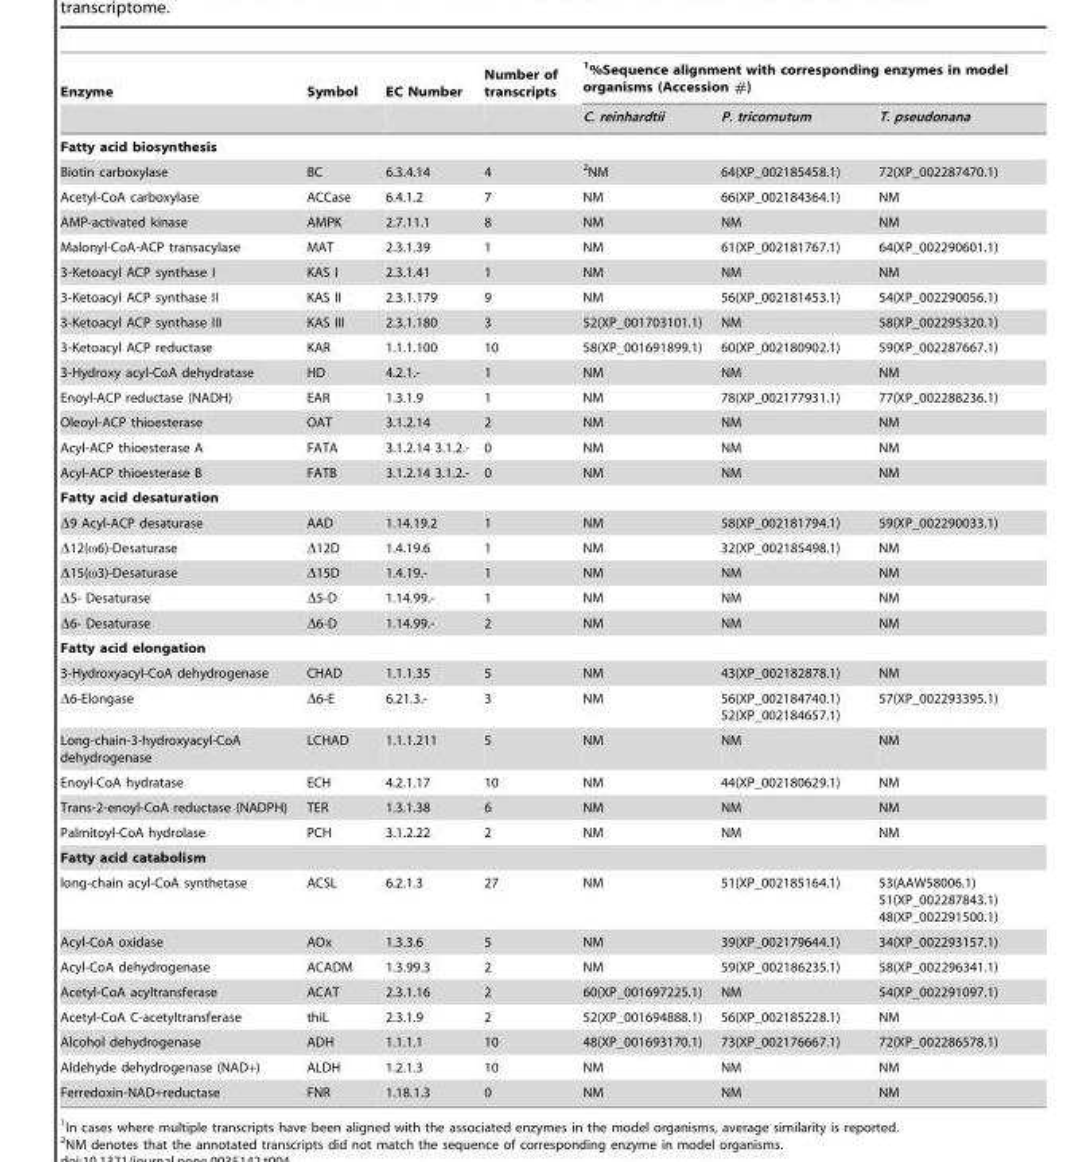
<table><thead><tr><td rowspan="2">Enzyme</td><td rowspan="2">Symbol</td><td rowspan="2">EC Number</td><td rowspan="2">Number of transcripts</td><td colspan="3">1%Sequence alignment with corresponding enzymes in model organisms (Accession #)</td></tr><tr><td>C. reinhardtii</td><td>P. tricornutum</td><td>T. pseudonana</td></tr></thead><tbody><tr><td colspan="7">Fatty acid biosynthesis</td></tr><tr><td>Biotin carboxylase</td><td>BC</td><td>6.3.4.14</td><td>4</td><td>2NM</td><td>64(XP_002185458.1)</td><td>72(XP_002287470.1)</td></tr><tr><td>Acetyl-CoA carboxylase</td><td>ACCase</td><td>6.4.1.2</td><td>7</td><td>NM</td><td>66(XP_002184364.1)</td><td>NM</td></tr><tr><td>AMP-activated kinase</td><td>AMPK</td><td>2.7.11.1</td><td>8</td><td>NM</td><td>NM</td><td>NM</td></tr><tr><td>Malonyl-CoA-ACP transacylase</td><td>MAT</td><td>2.3.1.39</td><td>1</td><td>NM</td><td>61(XP_002181767.1)</td><td>64(XP_002290601.1)</td></tr><tr><td>3-Ketoacyl ACP synthase I</td><td>KAS I</td><td>2.3.1.41</td><td>1</td><td>NM</td><td>NM</td><td>NM</td></tr><tr><td>3-Ketoacyl ACP synthase II</td><td>KAS II</td><td>2.3.1.179</td><td>9</td><td>NM</td><td>56(XP_002181453.1)</td><td>54(XP_002290056.1)</td></tr><tr><td>3-Ketoacyl ACP synthase III</td><td>KAS III</td><td>2.3.1.180</td><td>3</td><td>52(XP_001703101.1)</td><td>NM</td><td>58(XP_002295320.1)</td></tr><tr><td>3-Ketoacyl ACP reductase</td><td>KAR</td><td>1.1.1.100</td><td>10</td><td>58(XP_001691899.1)</td><td>60(XP_002180902.1)</td><td>59(XP_002287667.1)</td></tr><tr><td>3-Hydroxy acyl-CoA dehydratase</td><td>HD</td><td>4.2.1.-</td><td>1</td><td>NM</td><td>NM</td><td>NM</td></tr><tr><td>Enoyl-ACP reductase (NADH)</td><td>EAR</td><td>1.3.1.9</td><td>1</td><td>NM</td><td>78(XP_002177931.1)</td><td>77(XP_002288236.1)</td></tr><tr><td>Oleoyl-ACP thioesterase</td><td>OAT</td><td>3.1.2.14</td><td>2</td><td>NM</td><td>NM</td><td>NM</td></tr><tr><td>Acyl-ACP thioesterase A</td><td>FATA</td><td>3.1.2.14 3.1.2.-</td><td>0</td><td>NM</td><td>NM</td><td>NM</td></tr><tr><td>Acyl-ACP thioesterase B</td><td>FATB</td><td>3.1.2.14 3.1.2.-</td><td>0</td><td>NM</td><td>NM</td><td>NM</td></tr><tr><td colspan="7">Fatty acid desaturation</td></tr><tr><td>Δ9 Acyl-ACP desaturase</td><td>AAD</td><td>1.14.19.2</td><td>1</td><td>NM</td><td>58(XP_002181794.1)</td><td>59(XP_002290033.1)</td></tr><tr><td>Δ12(ω6)-Desaturase</td><td>Δ12D</td><td>1.4.19.6</td><td>1</td><td>NM</td><td>32(XP_002185498.1)</td><td>NM</td></tr><tr><td>Δ15(ω3)-Desaturase</td><td>Δ15D</td><td>1.4.19.-</td><td>1</td><td>NM</td><td>NM</td><td>NM</td></tr><tr><td>Δ5- Desaturase</td><td>Δ5-D</td><td>1.14.99.-</td><td>1</td><td>NM</td><td>NM</td><td>NM</td></tr><tr><td>Δ6- Desaturase</td><td>Δ6-D</td><td>1.14.99.-</td><td>2</td><td>NM</td><td>NM</td><td>NM</td></tr><tr><td colspan="7">Fatty acid elongation</td></tr><tr><td>3-Hydroxyacyl-CoA dehydrogenase</td><td>CHAD</td><td>1.1.1.35</td><td>5</td><td>NM</td><td>43(XP_002182878.1)</td><td>NM</td></tr><tr><td>Δ6-Elongase</td><td>Δ6-E</td><td>6.21.3.-</td><td>3</td><td>NM</td><td>56(XP_002184740.1) 52(XP_002184657.1)</td><td>57(XP_002293395.1)</td></tr><tr><td>Long-chain-3-hydroxyacyl-CoA dehydrogenase</td><td>LCHAD</td><td>1.1.1.211</td><td>5</td><td>NM</td><td>NM</td><td>NM</td></tr><tr><td>Enoyl-CoA hydratase</td><td>ECH</td><td>4.2.1.17</td><td>10</td><td>NM</td><td>44(XP_002180629.1)</td><td>NM</td></tr><tr><td>Trans-2-enoyl-CoA reductase (NADPH)</td><td>TER</td><td>1.3.1.38</td><td>6</td><td>NM</td><td>NM</td><td>NM</td></tr><tr><td>Palmitoyl-CoA hydrolase</td><td>PCH</td><td>3.1.2.22</td><td>2</td><td>NM</td><td>NM</td><td>NM</td></tr><tr><td colspan="7">Fatty acid catabolism</td></tr><tr><td>long-chain acyl-CoA synthetase</td><td>ACSL</td><td>6.2.1.3</td><td>27</td><td>NM</td><td>51(XP_002185164.1)</td><td>53(AAW58006.1) 51(XP_002287843.1) 48(XP_002291500.1)</td></tr><tr><td>Acyl-CoA oxidase</td><td>AOx</td><td>1.3.3.6</td><td>5</td><td>NM</td><td>39(XP_002179644.1)</td><td>34(XP_002293157.1)</td></tr><tr><td>Acyl-CoA dehydrogenase</td><td>ACADM</td><td>1.3.99.3</td><td>2</td><td>NM</td><td>59(XP_002186235.1)</td><td>58(XP_002296341.1)</td></tr><tr><td>Acetyl-CoA acyltransferase</td><td>ACAT</td><td>2.3.1.16</td><td>2</td><td>60(XP_001697225.1)</td><td>NM</td><td>54(XP_002291097.1)</td></tr><tr><td>Acetyl-CoA C-acetyltransferase</td><td>thiL</td><td>2.3.1.9</td><td>2</td><td>52(XP_001694888.1)</td><td>56(XP_002185228.1)</td><td>NM</td></tr><tr><td>Alcohol dehydrogenase</td><td>ADH</td><td>1.1.1.1</td><td>10</td><td>48(XP_001693170.1)</td><td>73(XP_002176667.1)</td><td>72(XP_002286578.1)</td></tr><tr><td>Aldehyde dehydrogenase (NAD+)</td><td>ALDH</td><td>1.2.1.3</td><td>10</td><td>NM</td><td>NM</td><td>NM</td></tr><tr><td>Ferredoxin-NAD+reductase</td><td>FNR</td><td>1.18.1.3</td><td>0</td><td>NM</td><td>NM</td><td>NM</td></tr></tbody></table>